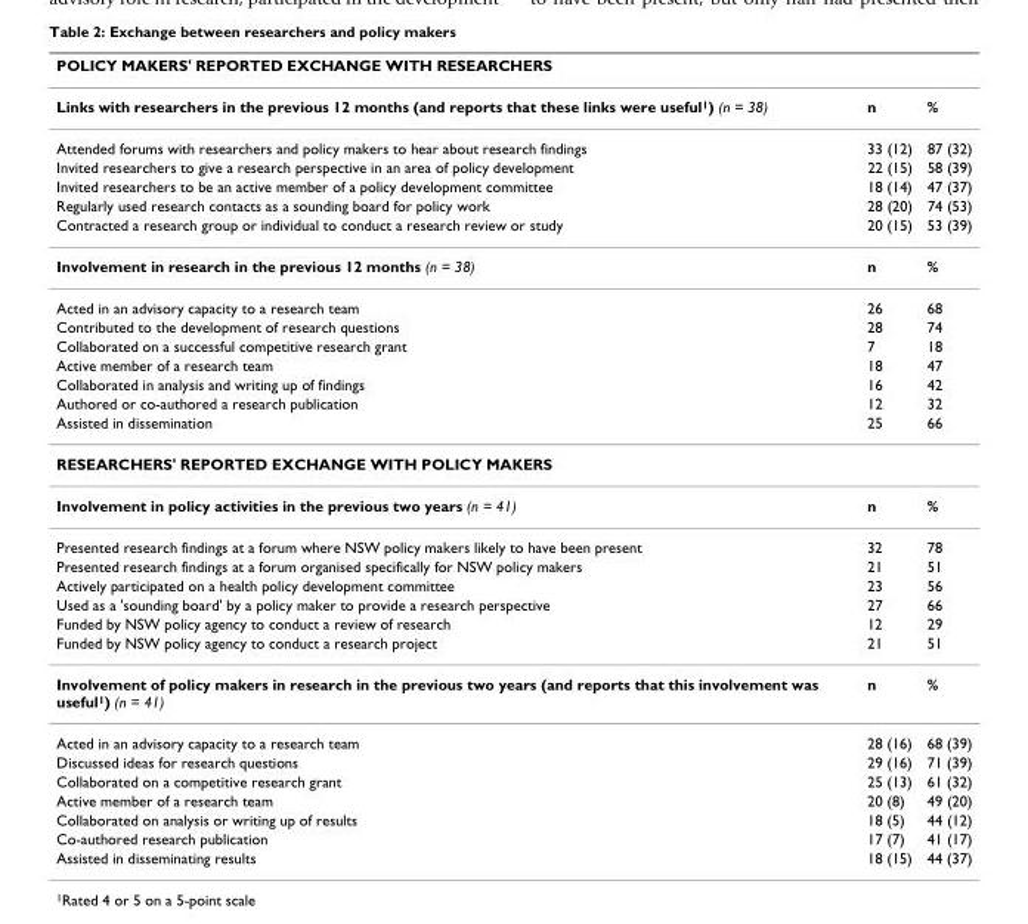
<table><thead><tr><td>POLICY MAKERS&#x27; REPORTED EXCHANGE WITH RESEARCHERS</td><td></td><td></td></tr></thead><tbody><tr><td>Links with researchers in the previous 12 months (and reports that these links were useful<sup>1</sup>) (n = 38)</td><td>n</td><td>%</td></tr><tr><td>Attended forums with researchers and policy makers to hear about research findings</td><td>33 (12)</td><td>87 (32)</td></tr><tr><td>Invited researchers to give a research perspective in an area of policy development</td><td>22 (15)</td><td>58 (39)</td></tr><tr><td>Invited researchers to be an active member of a policy development committee</td><td>18 (14)</td><td>47 (37)</td></tr><tr><td>Regularly used research contacts as a sounding board for policy work</td><td>28 (20)</td><td>74 (53)</td></tr><tr><td>Contracted a research group or individual to conduct a research review or study</td><td>20 (15)</td><td>53 (39)</td></tr><tr><td>Involvement in research in the previous 12 months (n = 38)</td><td>n</td><td>%</td></tr><tr><td>Acted in an advisory capacity to a research team</td><td>26</td><td>68</td></tr><tr><td>Contributed to the development of research questions</td><td>28</td><td>74</td></tr><tr><td>Collaborated on a successful competitive research grant</td><td>7</td><td>18</td></tr><tr><td>Active member of a research team</td><td>18</td><td>47</td></tr><tr><td>Collaborated in analysis and writing up of findings</td><td>16</td><td>42</td></tr><tr><td>Authored or co-authored a research publication</td><td>12</td><td>32</td></tr><tr><td>Assisted in dissemination</td><td>25</td><td>66</td></tr><tr><td colspan="3">RESEARCHERS&#x27; REPORTED EXCHANGE WITH POLICY MAKERS</td></tr><tr><td>Involvement in policy activities in the previous two years (n = 41)</td><td>n</td><td>%</td></tr><tr><td>Presented research findings at a forum where NSW policy makers likely to have been present</td><td>32</td><td>78</td></tr><tr><td>Presented research findings at a forum organised specifically for NSW policy makers</td><td>21</td><td>51</td></tr><tr><td>Actively participated on a health policy development committee</td><td>23</td><td>56</td></tr><tr><td>Used as a &#x27;sounding board&#x27; by a policy maker to provide a research perspective</td><td>27</td><td>66</td></tr><tr><td>Funded by NSW policy agency to conduct a review of research</td><td>12</td><td>29</td></tr><tr><td>Funded by NSW policy agency to conduct a research project</td><td>21</td><td>51</td></tr><tr><td>Involvement of policy makers in research in the previous two years (and reports that this involvement was useful<sup>1</sup>) (n = 41)</td><td>n</td><td>%</td></tr><tr><td>Acted in an advisory capacity to a research team</td><td>28 (16)</td><td>68 (39)</td></tr><tr><td>Discussed ideas for research questions</td><td>29 (16)</td><td>71 (39)</td></tr><tr><td>Collaborated on a competitive research grant</td><td>25 (13)</td><td>61 (32)</td></tr><tr><td>Active member of a research team</td><td>20 (8)</td><td>49 (20)</td></tr><tr><td>Collaborated on analysis or writing up of results</td><td>18 (5)</td><td>44 (12)</td></tr><tr><td>Co-authored research publication</td><td>17 (7)</td><td>41 (17)</td></tr><tr><td>Assisted in disseminating results</td><td>18 (15)</td><td>44 (37)</td></tr></tbody></table>